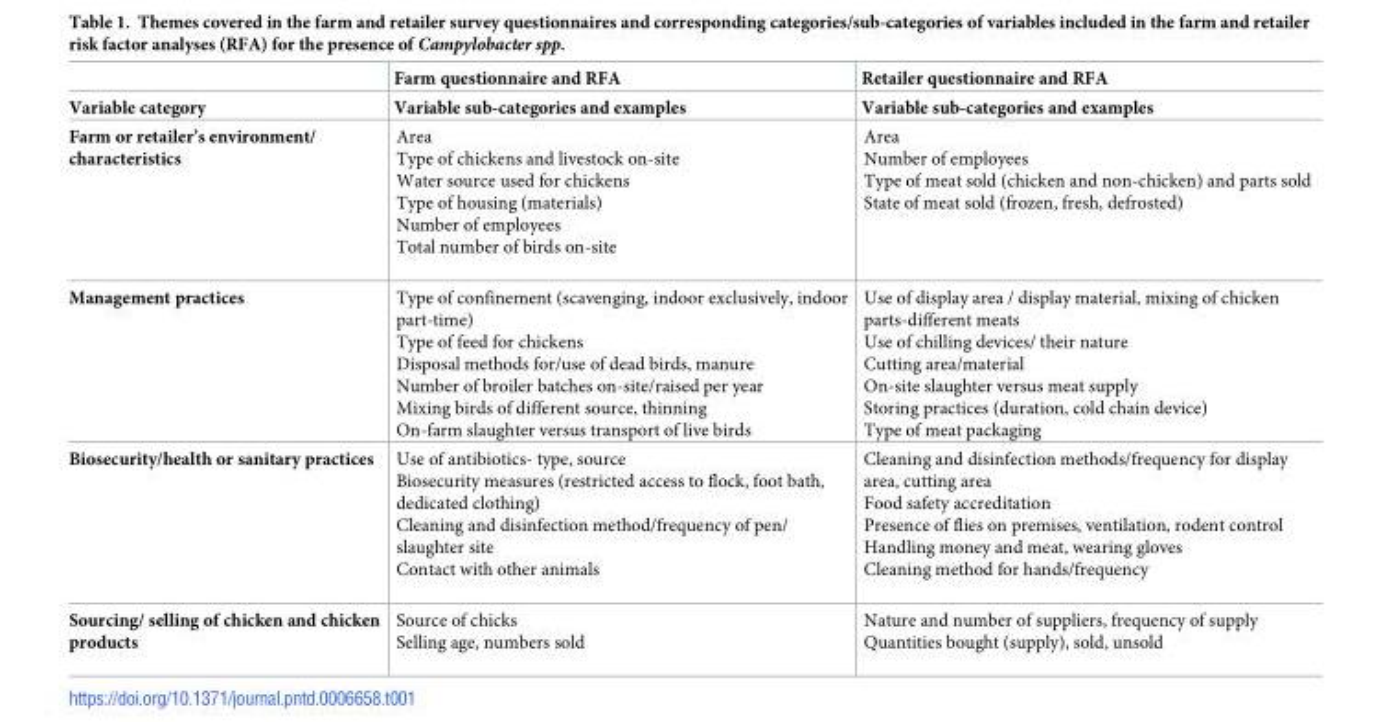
<table><thead><tr><td rowspan="2">Variable category</td><td rowspan="2">Farm questionnaire and RFA Variable sub-categories and examples</td><td rowspan="2">Retailer questionnaire and RFA Variable sub-categories and examples</td></tr><tr></tr></thead><tbody><tr><td>Farm or retailer’s environment/ characteristics</td><td>Area Type of chickens and livestock on-site Water source used for chickens Type of housing (materials) Number of employees Total number of birds on-site</td><td>Area Number of employees Type of meat sold (chicken and non-chicken) and parts sold State of meat sold (frozen, fresh, defrosted)</td></tr><tr><td>Management practices</td><td>Type of confinement (scavenging, indoor exclusively, indoor part-time) Type of feed for chickens Disposal methods for/use of dead birds, manure Number of broiler batches on-site/raised per year Mixing birds of different source, thinning On-farm slaughter versus transport of live birds</td><td>Use of display area / display material, mixing of chicken parts-different meats Use of chilling devices/ their nature Cutting area/material On-site slaughter versus meat supply Storing practices (duration, cold chain device) Type of meat packaging</td></tr><tr><td>Biosecurity/health or sanitary practices</td><td>Use of antibiotics- type, source Biosecurity measures (restricted access to flock, foot bath, dedicated clothing) Cleaning and disinfection method/frequency of pen/ slaughter site Contact with other animals</td><td>Cleaning and disinfection methods/frequency for display area, cutting area Food safety accreditation Presence of flies on premises, ventilation, rodent control Handling money and meat, wearing gloves Cleaning method for hands/frequency</td></tr><tr><td>Sourcing/ selling of chicken and chicken products</td><td>Source of chicks Selling age, numbers sold</td><td>Nature and number of suppliers, frequency of supply Quantities bought (supply), sold, unsold</td></tr></tbody></table>